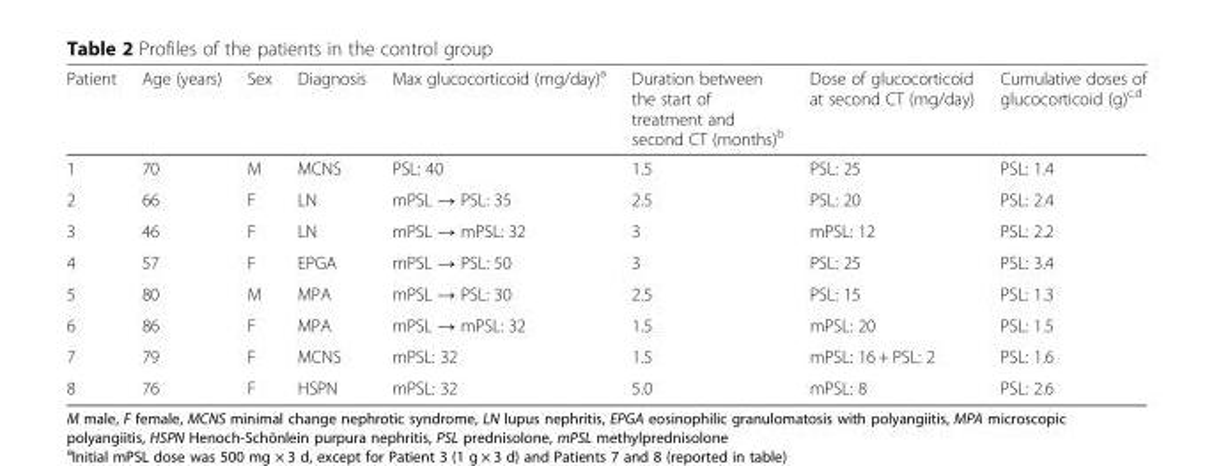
<table><thead><tr><td>Patient</td><td>Age (years)</td><td>Sex</td><td>Diagnosis</td><td>Max glucocorticoid (mg/day)<sup>a</sup></td><td>Duration between the start of treatment and second CT (months)<sup>b</sup></td><td>Dose of glucocorticoid at second CT (mg/day)</td><td>Cumulative doses of glucocorticoid (g)<sup>c,d</sup></td></tr></thead><tbody><tr><td>1</td><td>70</td><td>M</td><td>MCNS</td><td>PSL: 40</td><td>1.5</td><td>PSL: 25</td><td>PSL: 1.4</td></tr><tr><td>2</td><td>66</td><td>F</td><td>LN</td><td>mPSL → PSL: 35</td><td>2.5</td><td>PSL: 20</td><td>PSL: 2.4</td></tr><tr><td>3</td><td>46</td><td>F</td><td>LN</td><td>mPSL → mPSL: 32</td><td>3</td><td>mPSL: 12</td><td>PSL: 2.2</td></tr><tr><td>4</td><td>57</td><td>F</td><td>EPGA</td><td>mPSL → PSL: 50</td><td>3</td><td>PSL: 25</td><td>PSL: 3.4</td></tr><tr><td>5</td><td>80</td><td>M</td><td>MPA</td><td>mPSL → PSL: 30</td><td>2.5</td><td>PSL: 15</td><td>PSL: 1.3</td></tr><tr><td>6</td><td>86</td><td>F</td><td>MPA</td><td>mPSL → mPSL: 32</td><td>1.5</td><td>mPSL: 20</td><td>PSL: 1.5</td></tr><tr><td>7</td><td>79</td><td>F</td><td>MCNS</td><td>mPSL: 32</td><td>1.5</td><td>mPSL: 16 + PSL: 2</td><td>PSL: 1.6</td></tr><tr><td>8</td><td>76</td><td>F</td><td>HSPN</td><td>mPSL: 32</td><td>5.0</td><td>mPSL: 8</td><td>PSL: 2.6</td></tr></tbody></table>